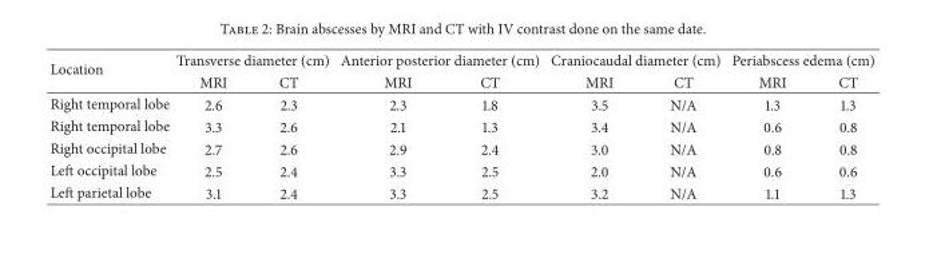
<table><thead><tr><td rowspan="2">Location</td><td colspan="2">Transverse diameter (cm)</td><td colspan="2">Anterior posterior diameter (cm)</td><td colspan="2">Craniocaudal diameter (cm)</td><td colspan="2">Periabscess edema (cm)</td></tr><tr><td>MRI</td><td>CT</td><td>MRI</td><td>CT</td><td>MRI</td><td>CT</td><td>MRI</td><td>CT</td></tr></thead><tbody><tr><td>Right temporal lobe</td><td>2.6</td><td>2.3</td><td>2.3</td><td>1.8</td><td>3.5</td><td>N/A</td><td>1.3</td><td>1.3</td></tr><tr><td>Right temporal lobe</td><td>3.3</td><td>2.6</td><td>2.1</td><td>1.3</td><td>3.4</td><td>N/A</td><td>0.6</td><td>0.8</td></tr><tr><td>Right occipital lobe</td><td>2.7</td><td>2.6</td><td>2.9</td><td>2.4</td><td>3.0</td><td>N/A</td><td>0.8</td><td>0.8</td></tr><tr><td>Left occipital lobe</td><td>2.5</td><td>2.4</td><td>3.3</td><td>2.5</td><td>2.0</td><td>N/A</td><td>0.6</td><td>0.6</td></tr><tr><td>Left parietal lobe</td><td>3.1</td><td>2.4</td><td>3.3</td><td>2.5</td><td>3.2</td><td>N/A</td><td>1.1</td><td>1.3</td></tr></tbody></table>